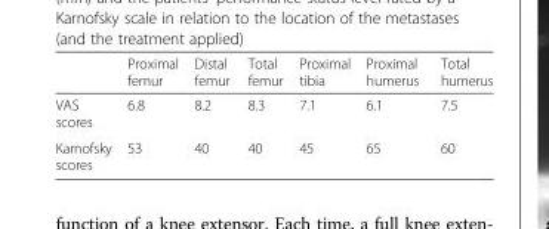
<table><thead><tr><td></td><td>Proximal femur</td><td>Distal femur</td><td>Total femur</td><td>Proximal tibia</td><td>Proximal humerus</td><td>Total humerus</td></tr></thead><tbody><tr><td>VAS scores</td><td>6.8</td><td>8.2</td><td>8.3</td><td>7.1</td><td>6.1</td><td>7.5</td></tr><tr><td>Karnofsky scores</td><td>53</td><td>40</td><td>40</td><td>45</td><td>65</td><td>60</td></tr></tbody></table>